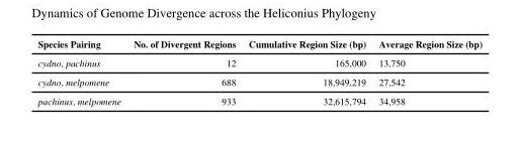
<table><thead><tr><td>Species Pairing</td><td>No. of Divergent Regions</td><td>Cumulative Region Size (bp)</td><td>Average Region Size (bp)</td></tr></thead><tbody><tr><td>cydno, pachinus</td><td>12</td><td>165,000</td><td>13,750</td></tr><tr><td>cydno, melpomene</td><td>688</td><td>18,949,219</td><td>27,542</td></tr><tr><td>pachinus, melpomene</td><td>933</td><td>32,615,794</td><td>34,958</td></tr></tbody></table>